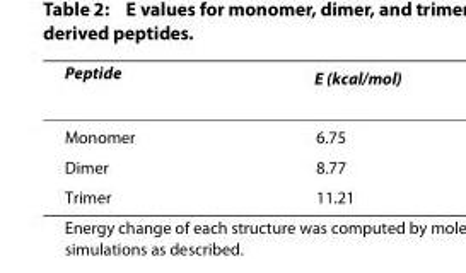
<table><thead><tr><td>Peptide</td><td>E (kcal/mol)</td></tr></thead><tbody><tr><td>Monomer</td><td>6.75</td></tr><tr><td>Dimer</td><td>8.77</td></tr><tr><td>Trimer</td><td>11.21</td></tr></tbody></table>